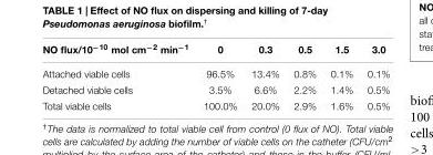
<table><thead><tr><td>NO flux/10<sup>−10</sup> mol cm<sup>−2</sup> min<sup>−1</sup></td><td>0</td><td>0.3</td><td>0.5</td><td>1.5</td><td>3.0</td></tr></thead><tbody><tr><td>Attached viable cells</td><td>96.5%</td><td>13.4%</td><td>0.8%</td><td>0.1%</td><td>0.1%</td></tr><tr><td>Detached viable cells</td><td>3.5%</td><td>6.6%</td><td>2.2%</td><td>1.4%</td><td>0.5%</td></tr><tr><td>Total viable cells</td><td>100.0%</td><td>20.0%</td><td>2.9%</td><td>1.6%</td><td>0.5%</td></tr></tbody></table>